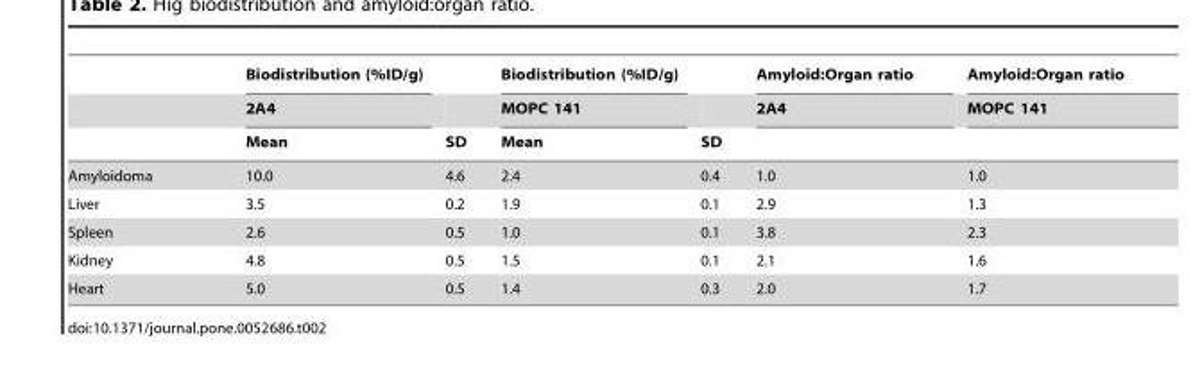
<table><thead><tr><td rowspan="3"></td><td rowspan="3">Biodistribution (%ID/g) 2A4 Mean</td><td rowspan="3">SD</td><td rowspan="3">Biodistribution (%ID/g) MOPC 141 Mean</td><td rowspan="3">SD</td><td rowspan="3">Amyloid:Organ ratio 2A4</td><td rowspan="3">Amyloid:Organ ratio MOPC 141</td></tr><tr></tr><tr></tr></thead><tbody><tr><td>Amyloidoma</td><td>10.0</td><td>4.6</td><td>2.4</td><td>0.4</td><td>1.0</td><td>1.0</td></tr><tr><td>Liver</td><td>3.5</td><td>0.2</td><td>1.9</td><td>0.1</td><td>2.9</td><td>1.3</td></tr><tr><td>Spleen</td><td>2.6</td><td>0.5</td><td>1.0</td><td>0.1</td><td>3.8</td><td>2.3</td></tr><tr><td>Kidney</td><td>4.8</td><td>0.5</td><td>1.5</td><td>0.1</td><td>2.1</td><td>1.6</td></tr><tr><td>Heart</td><td>5.0</td><td>0.5</td><td>1.4</td><td>0.3</td><td>2.0</td><td>1.7</td></tr></tbody></table>